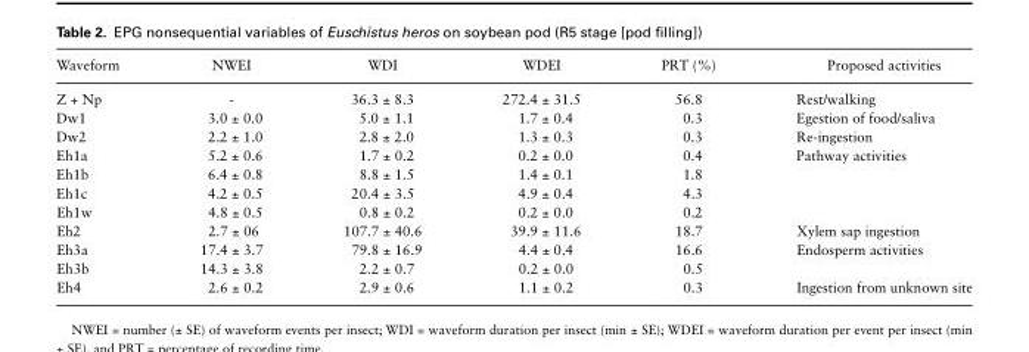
<table><thead><tr><td>Waveform</td><td>NWEI</td><td>WDI</td><td>WDEI</td><td>PRT (%)</td><td>Proposed activities</td></tr></thead><tbody><tr><td>Z + Np</td><td>-</td><td>36.3 ± 8.3</td><td>272.4 ± 31.5</td><td>56.8</td><td>Rest/walking</td></tr><tr><td>Dw1</td><td>3.0 ± 0.0</td><td>5.0 ± 1.1</td><td>1.7 ± 0.4</td><td>0.3</td><td>Egestion of food/saliva</td></tr><tr><td>Dw2</td><td>2.2 ± 1.0</td><td>2.8 ± 2.0</td><td>1.3 ± 0.3</td><td>0.3</td><td>Re-ingestion</td></tr><tr><td>Eh1a</td><td>5.2 ± 0.6</td><td>1.7 ± 0.2</td><td>0.2 ± 0.0</td><td>0.4</td><td rowspan="4">Pathway activities</td></tr><tr><td>Eh1b</td><td>6.4 ± 0.8</td><td>8.8 ± 1.5</td><td>1.4 ± 0.1</td><td>1.8</td></tr><tr><td>Eh1c</td><td>4.2 ± 0.5</td><td>20.4 ± 3.5</td><td>4.9 ± 0.4</td><td>4.3</td></tr><tr><td>Eh1w</td><td>4.8 ± 0.5</td><td>0.8 ± 0.2</td><td>0.2 ± 0.0</td><td>0.2</td></tr><tr><td>Eh2</td><td>2.7 ± 06</td><td>107.7 ± 40.6</td><td>39.9 ± 11.6</td><td>18.7</td><td>Xylem sap ingestion</td></tr><tr><td>Eh3a</td><td>17.4 ± 3.7</td><td>79.8 ± 16.9</td><td>4.4 ± 0.4</td><td>16.6</td><td rowspan="2">Endosperm activities</td></tr><tr><td>Eh3b</td><td>14.3 ± 3.8</td><td>2.2 ± 0.7</td><td>0.2 ± 0.0</td><td>0.5</td></tr><tr><td>Eh4</td><td>2.6 ± 0.2</td><td>2.9 ± 0.6</td><td>1.1 ± 0.2</td><td>0.3</td><td>Ingestion from unknown site</td></tr></tbody></table>